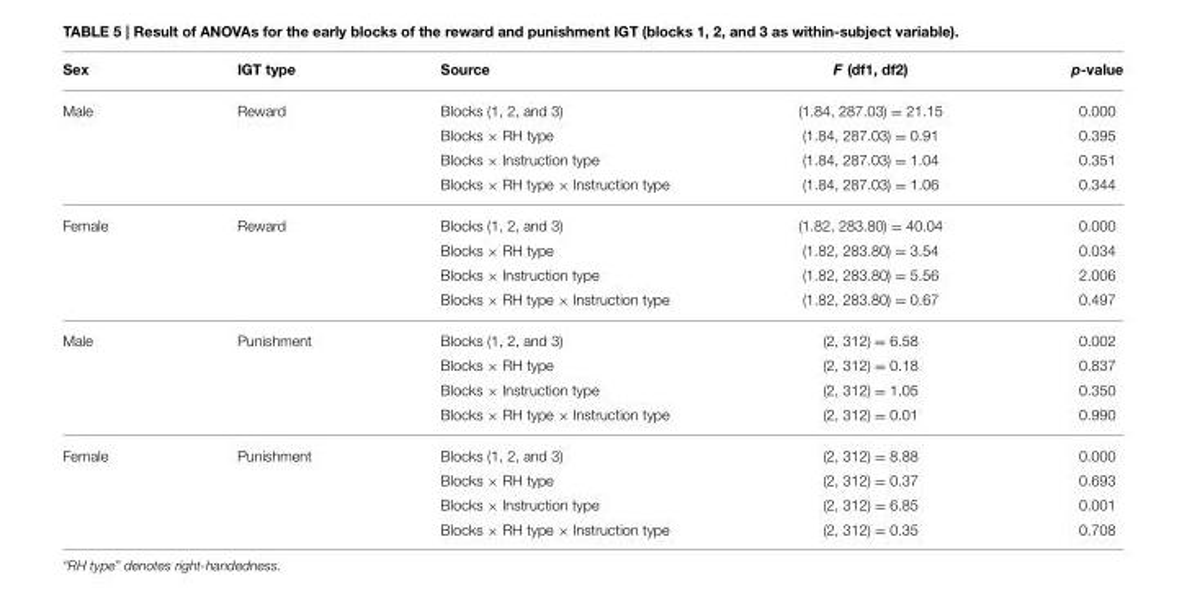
<table><thead><tr><td>Sex</td><td>IGT type</td><td>Source</td><td>F (df1, df2)</td><td>p-value</td></tr></thead><tbody><tr><td rowspan="4">Male</td><td>Reward</td><td>Blocks (1, 2, and 3)</td><td>(1.84, 287.03) = 21.15</td><td>0.000</td></tr><tr><td></td><td>Blocks × RH type</td><td>(1.84, 287.03) = 0.91</td><td>0.395</td></tr><tr><td></td><td>Blocks × Instruction type</td><td>(1.84, 287.03) = 1.04</td><td>0.351</td></tr><tr><td></td><td>Blocks × RH type × Instruction type</td><td>(1.84, 287.03) = 1.06</td><td>0.344</td></tr><tr><td rowspan="4">Female</td><td>Reward</td><td>Blocks (1, 2, and 3)</td><td>(1.82, 283.80) = 40.04</td><td>0.000</td></tr><tr><td></td><td>Blocks × RH type</td><td>(1.82, 283.80) = 3.54</td><td>0.034</td></tr><tr><td></td><td>Blocks × Instruction type</td><td>(1.82, 283.80) = 5.56</td><td>2.006</td></tr><tr><td></td><td>Blocks × RH type × Instruction type</td><td>(1.82, 283.80) = 0.67</td><td>0.497</td></tr><tr><td rowspan="4">Male</td><td>Punishment</td><td>Blocks (1, 2, and 3)</td><td>(2, 312) = 6.58</td><td>0.002</td></tr><tr><td></td><td>Blocks × RH type</td><td>(2, 312) = 0.18</td><td>0.837</td></tr><tr><td></td><td>Blocks × Instruction type</td><td>(2, 312) = 1.05</td><td>0.350</td></tr><tr><td></td><td>Blocks × RH type × Instruction type</td><td>(2, 312) = 0.01</td><td>0.990</td></tr><tr><td rowspan="4">Female</td><td>Punishment</td><td>Blocks (1, 2, and 3)</td><td>(2, 312) = 8.88</td><td>0.000</td></tr><tr><td></td><td>Blocks × RH type</td><td>(2, 312) = 0.37</td><td>0.693</td></tr><tr><td></td><td>Blocks × Instruction type</td><td>(2, 312) = 6.85</td><td>0.001</td></tr><tr><td></td><td>Blocks × RH type × Instruction type</td><td>(2, 312) = 0.35</td><td>0.708</td></tr></tbody></table>